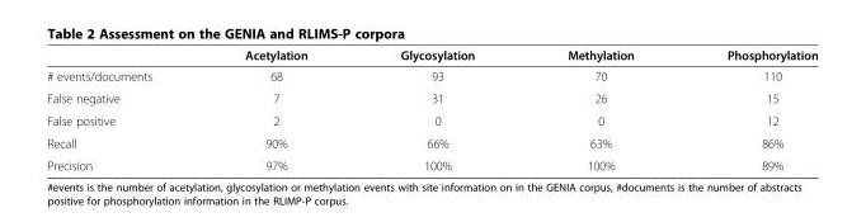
<table><thead><tr><td></td><td>Acetylation</td><td>Glycosylation</td><td>Methylation</td><td>Phosphorylation</td></tr></thead><tbody><tr><td># events/documents</td><td>68</td><td>93</td><td>70</td><td>110</td></tr><tr><td>False negative</td><td>7</td><td>31</td><td>26</td><td>15</td></tr><tr><td>False positive</td><td>2</td><td>0</td><td>0</td><td>12</td></tr><tr><td>Recall</td><td>90%</td><td>66%</td><td>63%</td><td>86%</td></tr><tr><td>Precision</td><td>97%</td><td>100%</td><td>100%</td><td>89%</td></tr></tbody></table>